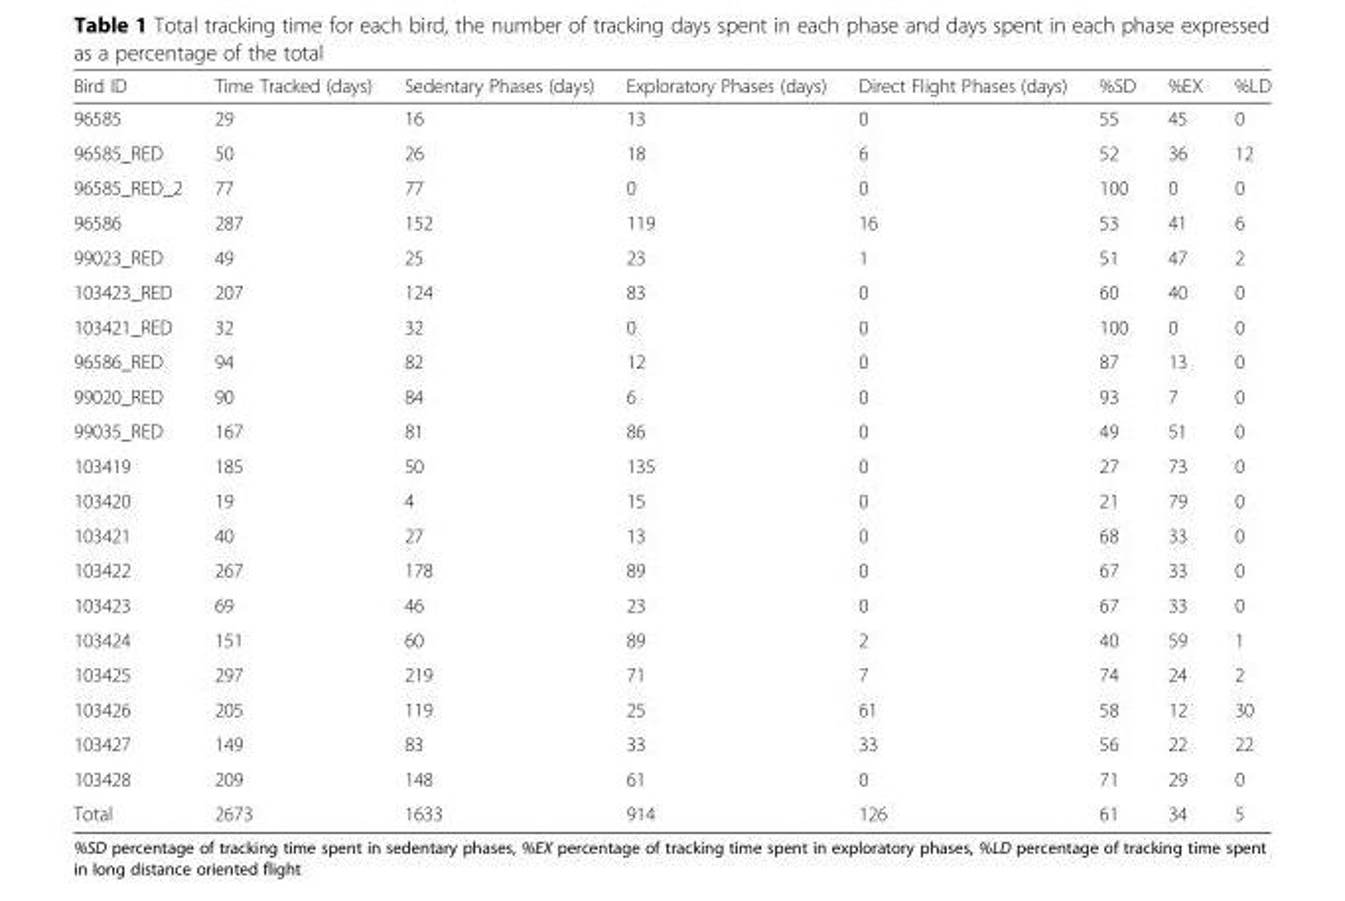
<table><thead><tr><td>Bird ID</td><td>Time Tracked (days)</td><td>Sedentary Phases (days)</td><td>Exploratory Phases (days)</td><td>Direct Flight Phases (days)</td><td>%SD</td><td>%EX</td><td>%LD</td></tr></thead><tbody><tr><td>96585</td><td>29</td><td>16</td><td>13</td><td>0</td><td>55</td><td>45</td><td>0</td></tr><tr><td>96585_RED</td><td>50</td><td>26</td><td>18</td><td>6</td><td>52</td><td>36</td><td>12</td></tr><tr><td>96585_RED_2</td><td>77</td><td>77</td><td>0</td><td>0</td><td>100</td><td>0</td><td>0</td></tr><tr><td>96586</td><td>287</td><td>152</td><td>119</td><td>16</td><td>53</td><td>41</td><td>6</td></tr><tr><td>99023_RED</td><td>49</td><td>25</td><td>23</td><td>1</td><td>51</td><td>47</td><td>2</td></tr><tr><td>103423_RED</td><td>207</td><td>124</td><td>83</td><td>0</td><td>60</td><td>40</td><td>0</td></tr><tr><td>103421_RED</td><td>32</td><td>32</td><td>0</td><td>0</td><td>100</td><td>0</td><td>0</td></tr><tr><td>96586_RED</td><td>94</td><td>82</td><td>12</td><td>0</td><td>87</td><td>13</td><td>0</td></tr><tr><td>99020_RED</td><td>90</td><td>84</td><td>6</td><td>0</td><td>93</td><td>7</td><td>0</td></tr><tr><td>99035_RED</td><td>167</td><td>81</td><td>86</td><td>0</td><td>49</td><td>51</td><td>0</td></tr><tr><td>103419</td><td>185</td><td>50</td><td>135</td><td>0</td><td>27</td><td>73</td><td>0</td></tr><tr><td>103420</td><td>19</td><td>4</td><td>15</td><td>0</td><td>21</td><td>79</td><td>0</td></tr><tr><td>103421</td><td>40</td><td>27</td><td>13</td><td>0</td><td>68</td><td>33</td><td>0</td></tr><tr><td>103422</td><td>267</td><td>178</td><td>89</td><td>0</td><td>67</td><td>33</td><td>0</td></tr><tr><td>103423</td><td>69</td><td>46</td><td>23</td><td>0</td><td>67</td><td>33</td><td>0</td></tr><tr><td>103424</td><td>151</td><td>60</td><td>89</td><td>2</td><td>40</td><td>59</td><td>1</td></tr><tr><td>103425</td><td>297</td><td>219</td><td>71</td><td>7</td><td>74</td><td>24</td><td>2</td></tr><tr><td>103426</td><td>205</td><td>119</td><td>25</td><td>61</td><td>58</td><td>12</td><td>30</td></tr><tr><td>103427</td><td>149</td><td>83</td><td>33</td><td>33</td><td>56</td><td>22</td><td>22</td></tr><tr><td>103428</td><td>209</td><td>148</td><td>61</td><td>0</td><td>71</td><td>29</td><td>0</td></tr><tr><td>Total</td><td>2673</td><td>1633</td><td>914</td><td>126</td><td>61</td><td>34</td><td>5</td></tr></tbody></table>